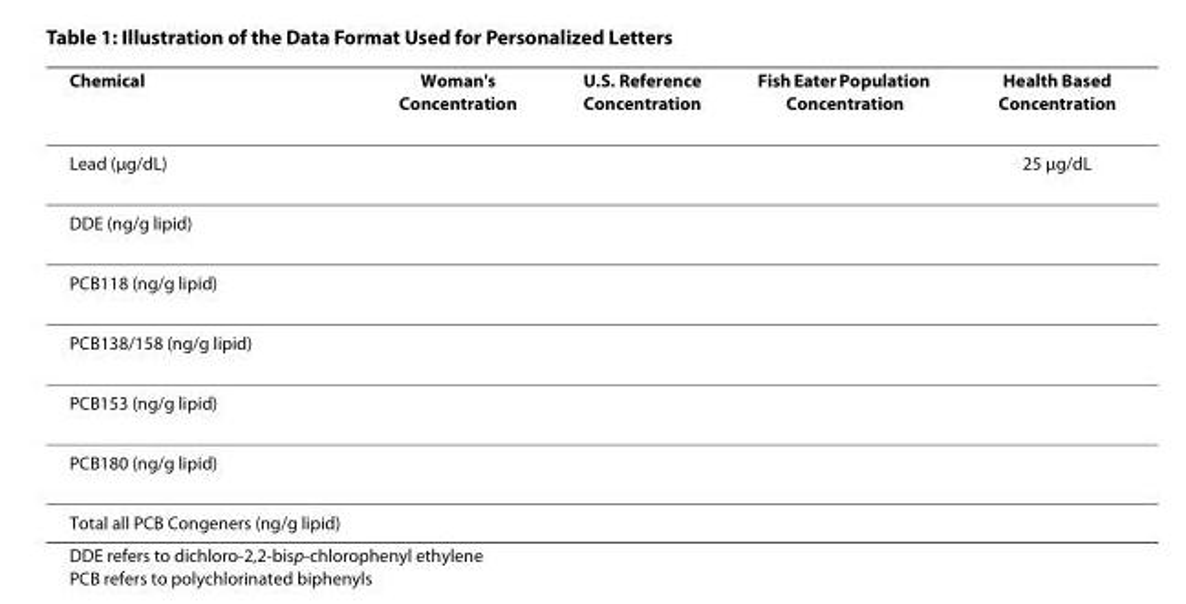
<table><thead><tr><td>Chemical</td><td>Woman&#x27;s Concentration</td><td>U.S. Reference Concentration</td><td>Fish Eater Population Concentration</td><td>Health Based Concentration</td></tr></thead><tbody><tr><td>Lead (μg/dL)</td><td></td><td></td><td></td><td>25 μg/dL</td></tr><tr><td colspan="5">DDE (ng/g lipid)</td></tr><tr><td colspan="5">PCB118 (ng/g lipid)</td></tr><tr><td colspan="5">PCB138/158 (ng/g lipid)</td></tr><tr><td colspan="5">PCB153 (ng/g lipid)</td></tr><tr><td colspan="5">PCB180 (ng/g lipid)</td></tr><tr><td>Total all PCB Congeners (ng/g lipid)</td><td></td><td></td><td></td><td></td></tr></tbody></table>